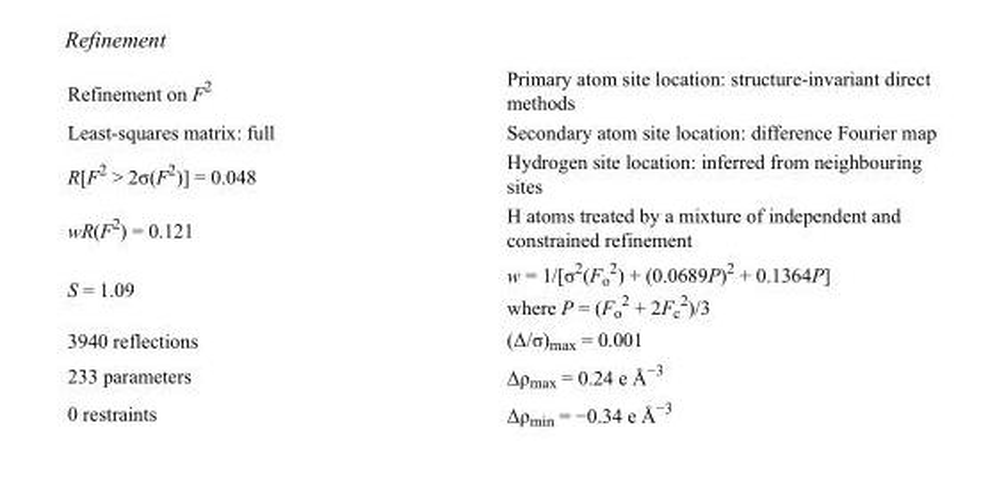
<table><tbody><tr><td>Refinement on F<sup>2</sup></td><td>Primary atom site location: structure-invariant direct methods</td></tr><tr><td>Least-squares matrix: full</td><td>Secondary atom site location: difference Fourier map</td></tr><tr><td>R[F<sup>2</sup> &gt; 2σ(F<sup>2</sup>)] = 0.048</td><td>Hydrogen site location: inferred from neighbouring sites</td></tr><tr><td>wR(F<sup>2</sup>) = 0.121</td><td>H atoms treated by a mixture of independent and constrained refinement</td></tr><tr><td>S = 1.09</td><td>w = 1/[σ<sup>2</sup>(F<sub>o</sub> <sup>2</sup>) + (0.0689P)<sup>2</sup> + 0.1364P] where P = (F<sub>o</sub> <sup>2</sup> + 2F<sub>c</sub> <sup>2</sup>)/3</td></tr><tr><td>3940 reflections</td><td>(Δ/σ)<sub>max</sub> = 0.001</td></tr><tr><td>233 parameters</td><td>Δρ<sub>max</sub> = 0.24 e Å<sup>−3</sup></td></tr><tr><td>0 restraints</td><td>Δρ<sub>min</sub> = −0.34 e Å<sup>−3</sup></td></tr></tbody></table>